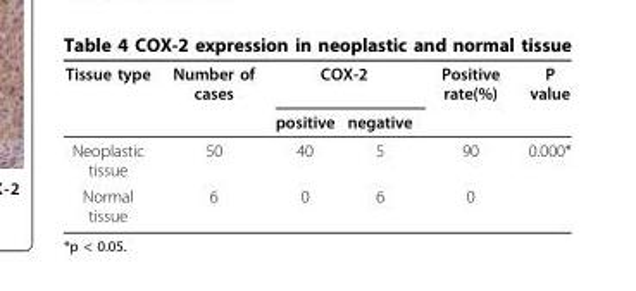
<table><thead><tr><td rowspan="2">Tissue type</td><td rowspan="2">Number of cases</td><td colspan="2">COX-2</td><td rowspan="2">Positive rate(%)</td><td rowspan="2">P value</td></tr><tr><td>positive</td><td>negative</td></tr></thead><tbody><tr><td>Neoplastic tissue</td><td>50</td><td>40</td><td>5</td><td>90</td><td>0.000*</td></tr><tr><td>Normal tissue</td><td>6</td><td>0</td><td>6</td><td>0</td><td></td></tr></tbody></table>